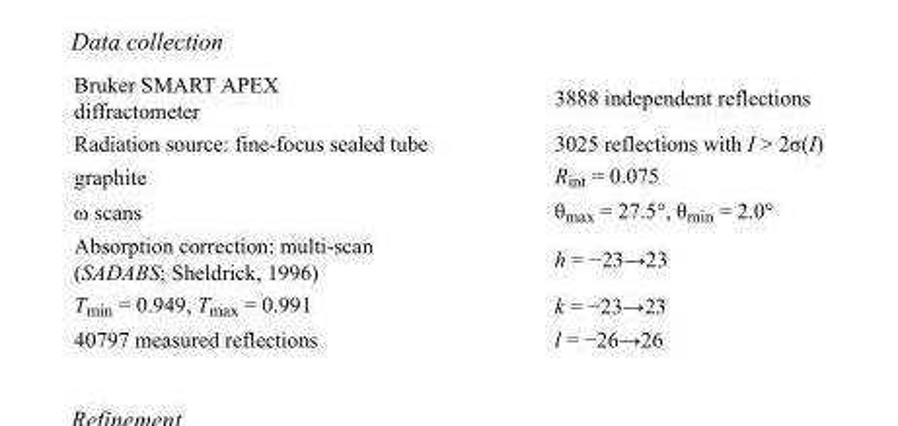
<table><tbody><tr><td>Bruker SMART APEX diffractometer</td><td>3888 independent reflections</td></tr><tr><td>Radiation source: fine-focus sealed tube</td><td>3025 reflections with I &gt; 2σ(I)</td></tr><tr><td>graphite</td><td>R<sub>int</sub> = 0.075</td></tr><tr><td>ω scans</td><td>θ<sub>max</sub> = 27.5°, θ<sub>min</sub> = 2.0°</td></tr><tr><td>Absorption correction: multi-scan (SADABS; Sheldrick, 1996)</td><td>h = −23→23</td></tr><tr><td>T<sub>min</sub> = 0.949, T<sub>max</sub> = 0.991</td><td>k = −23→23</td></tr><tr><td>40797 measured reflections</td><td>l = −26→26</td></tr></tbody></table>